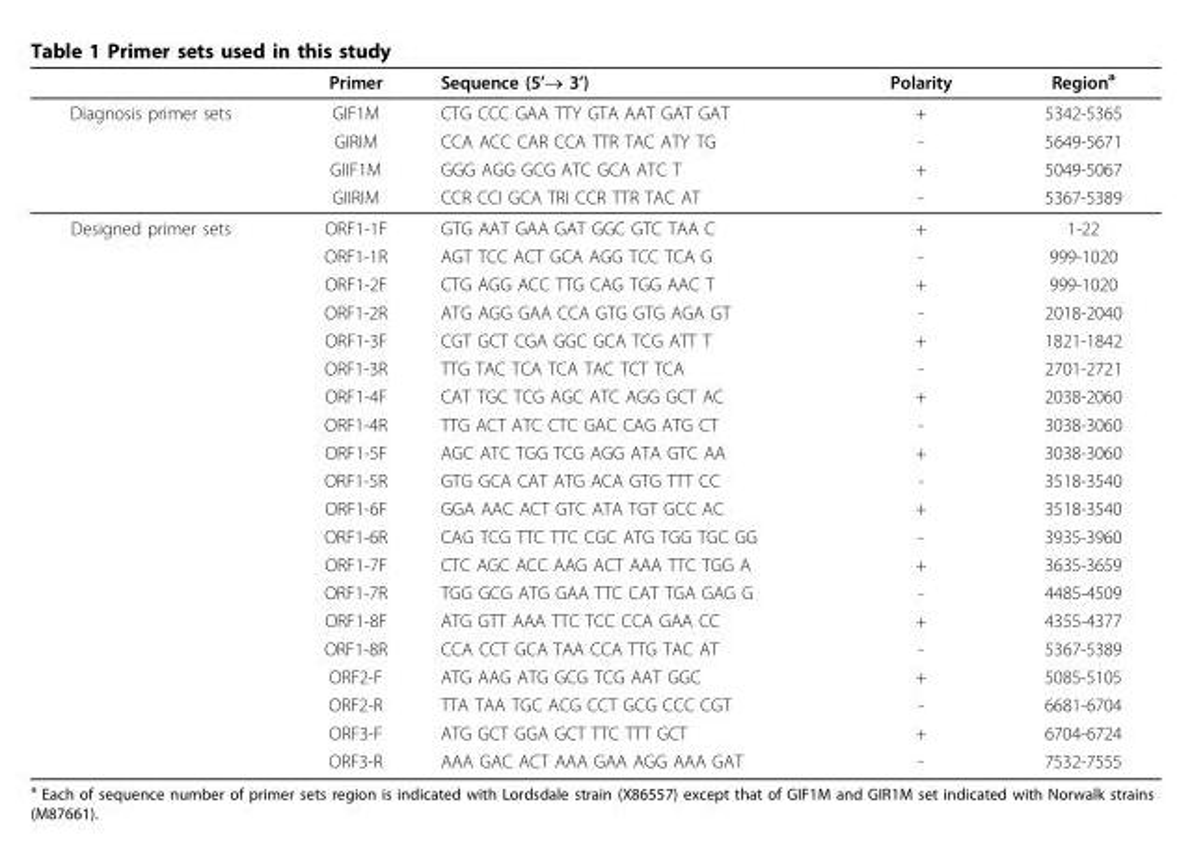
<table><thead><tr><td></td><td>Primer</td><td>Sequence (5’→ 3’)</td><td>Polarity</td><td>Region<sup>a</sup></td></tr></thead><tbody><tr><td rowspan="4">Diagnosis primer sets</td><td>GIF1M</td><td>CTG CCC GAA TTY GTA AAT GAT GAT</td><td>+</td><td>5342-5365</td></tr><tr><td>GIRIM</td><td>CCA ACC CAR CCA TTR TAC ATY TG</td><td>-</td><td>5649-5671</td></tr><tr><td>GIIF1M</td><td>GGG AGG GCG ATC GCA ATC T</td><td>+</td><td>5049-5067</td></tr><tr><td>GIIRIM</td><td>CCR CCI GCA TRI CCR TTR TAC AT</td><td>-</td><td>5367-5389</td></tr><tr><td rowspan="20">Designed primer sets</td><td>ORF1-1F</td><td>GTG AAT GAA GAT GGC GTC TAA C</td><td>+</td><td>1-22</td></tr><tr><td>ORF1-1R</td><td>AGT TCC ACT GCA AGG TCC TCA G</td><td>-</td><td>999-1020</td></tr><tr><td>ORF1-2F</td><td>CTG AGG ACC TTG CAG TGG AAC T</td><td>+</td><td>999-1020</td></tr><tr><td>ORF1-2R</td><td>ATG AGG GAA CCA GTG GTG AGA GT</td><td>-</td><td>2018-2040</td></tr><tr><td>ORF1-3F</td><td>CGT GCT CGA GGC GCA TCG ATT T</td><td>+</td><td>1821-1842</td></tr><tr><td>ORF1-3R</td><td>TTG TAC TCA TCA TAC TCT TCA</td><td>-</td><td>2701-2721</td></tr><tr><td>ORF1-4F</td><td>CAT TGC TCG AGC ATC AGG GCT AC</td><td>+</td><td>2038-2060</td></tr><tr><td>ORF1-4R</td><td>TTG ACT ATC CTC GAC CAG ATG CT</td><td>-</td><td>3038-3060</td></tr><tr><td>ORF1-5F</td><td>AGC ATC TGG TCG AGG ATA GTC AA</td><td>+</td><td>3038-3060</td></tr><tr><td>ORF1-5R</td><td>GTG GCA CAT ATG ACA GTG TTT CC</td><td>-</td><td>3518-3540</td></tr><tr><td>ORF1-6F</td><td>GGA AAC ACT GTC ATA TGT GCC AC</td><td>+</td><td>3518-3540</td></tr><tr><td>ORF1-6R</td><td>CAG TCG TTC TTC CGC ATG TGG TGC GG</td><td>-</td><td>3935-3960</td></tr><tr><td>ORF1-7F</td><td>CTC AGC ACC AAG ACT AAA TTC TGG A</td><td>+</td><td>3635-3659</td></tr><tr><td>ORF1-7R</td><td>TGG GCG ATG GAA TTC CAT TGA GAG G</td><td>-</td><td>4485-4509</td></tr><tr><td>ORF1-8F</td><td>ATG GTT AAA TTC TCC CCA GAA CC</td><td>+</td><td>4355-4377</td></tr><tr><td>ORF1-8R</td><td>CCA CCT GCA TAA CCA TTG TAC AT</td><td>-</td><td>5367-5389</td></tr><tr><td>ORF2-F</td><td>ATG AAG ATG GCG TCG AAT GGC</td><td>+</td><td>5085-5105</td></tr><tr><td>ORF2-R</td><td>TTA TAA TGC ACG CCT GCG CCC CGT</td><td>-</td><td>6681-6704</td></tr><tr><td>ORF3-F</td><td>ATG GCT GGA GCT TTC TTT GCT</td><td>+</td><td>6704-6724</td></tr><tr><td>ORF3-R</td><td>AAA GAC ACT AAA GAA AGG AAA GAT</td><td>-</td><td>7532-7555</td></tr></tbody></table>